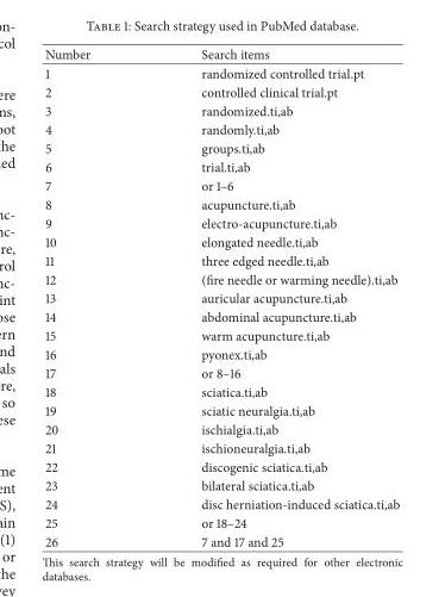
<table><thead><tr><td>Number</td><td>Search items</td></tr></thead><tbody><tr><td>1</td><td>randomized controlled trial.pt</td></tr><tr><td>2</td><td>controlled clinical trial.pt</td></tr><tr><td>3</td><td>randomized.ti,ab</td></tr><tr><td>4</td><td>randomly.ti,ab</td></tr><tr><td>5</td><td>groups.ti,ab</td></tr><tr><td>6</td><td>trial.ti,ab</td></tr><tr><td>7</td><td>or 1–6</td></tr><tr><td>8</td><td>acupuncture.ti,ab</td></tr><tr><td>9</td><td>electro-acupuncture.ti,ab</td></tr><tr><td>10</td><td>elongated needle.ti,ab</td></tr><tr><td>11</td><td>three edged needle.ti,ab</td></tr><tr><td>12</td><td>(fire needle or warming needle).ti,ab</td></tr><tr><td>13</td><td>auricular acupuncture.ti,ab</td></tr><tr><td>14</td><td>abdominal acupuncture.ti,ab</td></tr><tr><td>15</td><td>warm acupuncture.ti,ab</td></tr><tr><td>16</td><td>pyonex.ti,ab</td></tr><tr><td>17</td><td>or 8–16</td></tr><tr><td>18</td><td>sciatica.ti,ab</td></tr><tr><td>19</td><td>sciatic neuralgia.ti,ab</td></tr><tr><td>20</td><td>ischialgia.ti,ab</td></tr><tr><td>21</td><td>ischioneuralgia.ti,ab</td></tr><tr><td>22</td><td>discogenic sciatica.ti,ab</td></tr><tr><td>23</td><td>bilateral sciatica.ti,ab</td></tr><tr><td>24</td><td>disc herniation-induced sciatica.ti,ab</td></tr><tr><td>25</td><td>or 18–24</td></tr><tr><td>26</td><td>7 and 17 and 25</td></tr></tbody></table>